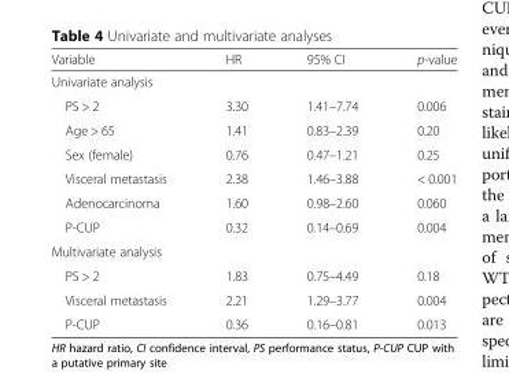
<table><thead><tr><td>Variable</td><td>HR</td><td>95% CI</td><td>p-value</td></tr></thead><tbody><tr><td colspan="4">Univariate analysis</td></tr><tr><td>PS &gt; 2</td><td>3.30</td><td>1.41–7.74</td><td>0.006</td></tr><tr><td>Age &gt; 65</td><td>1.41</td><td>0.83–2.39</td><td>0.20</td></tr><tr><td>Sex (female)</td><td>0.76</td><td>0.47–1.21</td><td>0.25</td></tr><tr><td>Visceral metastasis</td><td>2.38</td><td>1.46–3.88</td><td>&lt; 0.001</td></tr><tr><td>Adenocarcinoma</td><td>1.60</td><td>0.98–2.60</td><td>0.060</td></tr><tr><td>P-CUP</td><td>0.32</td><td>0.14–0.69</td><td>0.004</td></tr><tr><td colspan="4">Multivariate analysis</td></tr><tr><td>PS &gt; 2</td><td>1.83</td><td>0.75–4.49</td><td>0.18</td></tr><tr><td>Visceral metastasis</td><td>2.21</td><td>1.29–3.77</td><td>0.004</td></tr><tr><td>P-CUP</td><td>0.36</td><td>0.16–0.81</td><td>0.013</td></tr></tbody></table>